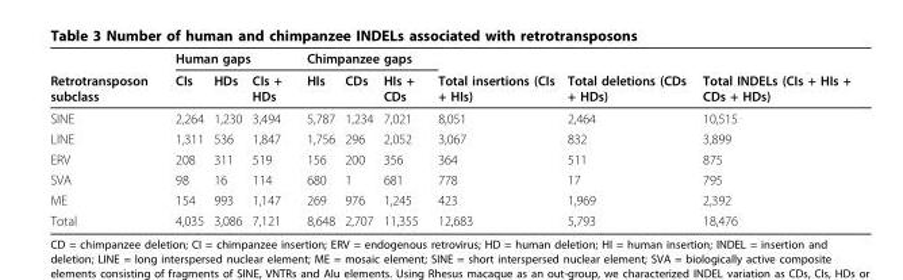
<table><thead><tr><td rowspan="2">Retrotransposon subclass</td><td colspan="3">Human gaps</td><td colspan="3">Chimpanzee gaps</td><td rowspan="2">Total insertions (CIs + HIs)</td><td rowspan="2">Total deletions (CDs + HDs)</td><td rowspan="2">Total INDELs (CIs + HIs + CDs + HDs)</td></tr><tr><td>CIs</td><td>HDs</td><td>CIs + HDs</td><td>HIs</td><td>CDs</td><td>HIs + CDs</td></tr></thead><tbody><tr><td>SINE</td><td>2,264</td><td>1,230</td><td>3,494</td><td>5,787</td><td>1,234</td><td>7,021</td><td>8,051</td><td>2,464</td><td>10,515</td></tr><tr><td>LINE</td><td>1,311</td><td>536</td><td>1,847</td><td>1,756</td><td>296</td><td>2,052</td><td>3,067</td><td>832</td><td>3,899</td></tr><tr><td>ERV</td><td>208</td><td>311</td><td>519</td><td>156</td><td>200</td><td>356</td><td>364</td><td>511</td><td>875</td></tr><tr><td>SVA</td><td>98</td><td>16</td><td>114</td><td>680</td><td>1</td><td>681</td><td>778</td><td>17</td><td>795</td></tr><tr><td>ME</td><td>154</td><td>993</td><td>1,147</td><td>269</td><td>976</td><td>1,245</td><td>423</td><td>1,969</td><td>2,392</td></tr><tr><td>Total</td><td>4,035</td><td>3,086</td><td>7,121</td><td>8,648</td><td>2,707</td><td>11,355</td><td>12,683</td><td>5,793</td><td>18,476</td></tr></tbody></table>